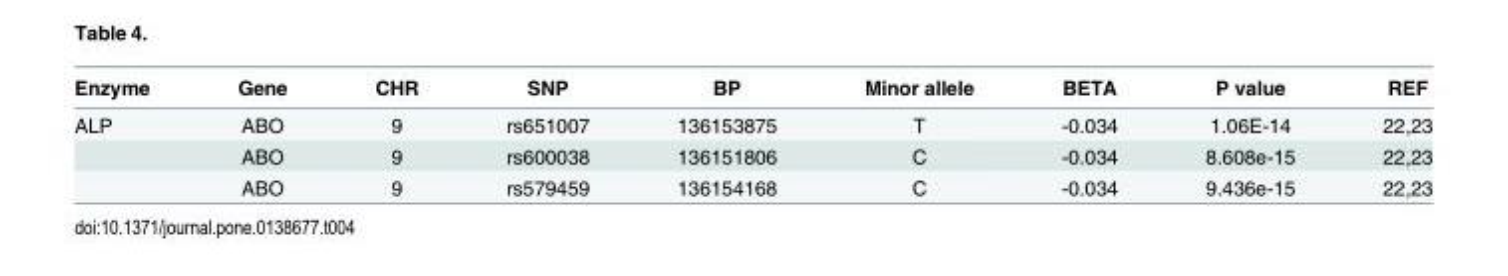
<table><thead><tr><td>Enzyme</td><td>Gene</td><td>CHR</td><td>SNP</td><td>BP</td><td>Minor allele</td><td>BETA</td><td>P value</td><td>REF</td></tr></thead><tbody><tr><td rowspan="3">ALP</td><td>ABO</td><td>9</td><td>rs651007</td><td>136153875</td><td>T</td><td>-0.034</td><td>1.06E-14</td><td>22,23</td></tr><tr><td>ABO</td><td>9</td><td>rs600038</td><td>136151806</td><td>C</td><td>-0.034</td><td>8.608e-15</td><td>22,23</td></tr><tr><td>ABO</td><td>9</td><td>rs579459</td><td>136154168</td><td>C</td><td>-0.034</td><td>9.436e-15</td><td>22,23</td></tr></tbody></table>